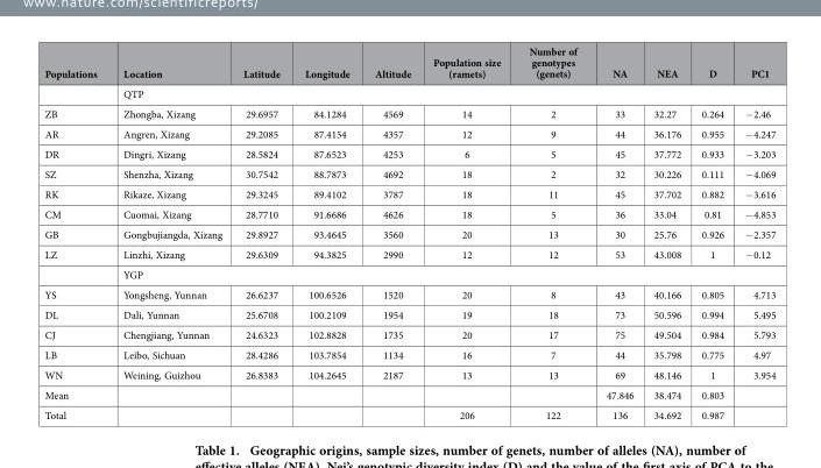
<table><thead><tr><td>Populations</td><td>Location</td><td>Latitude</td><td>Longitude</td><td>Altitude</td><td>Population size (ramets)</td><td>Number of genotypes (genets)</td><td>NA</td><td>NEA</td><td>D</td><td>PC1</td></tr></thead><tbody><tr><td></td><td colspan="10">QTP</td></tr><tr><td>ZB</td><td>Zhongba, Xizang</td><td>29.6957</td><td>84.1284</td><td>4569</td><td>14</td><td>2</td><td>33</td><td>32.27</td><td>0.264</td><td>− 2.46</td></tr><tr><td>AR</td><td>Angren, Xizang</td><td>29.2085</td><td>87.4154</td><td>4357</td><td>12</td><td>9</td><td>44</td><td>36.176</td><td>0.955</td><td>− 4.247</td></tr><tr><td>DR</td><td>Dingri, Xizang</td><td>28.5824</td><td>87.6523</td><td>4253</td><td>6</td><td>5</td><td>45</td><td>37.772</td><td>0.933</td><td>− 3.203</td></tr><tr><td>SZ</td><td>Shenzha, Xizang</td><td>30.7542</td><td>88.7873</td><td>4692</td><td>18</td><td>2</td><td>32</td><td>30.226</td><td>0.111</td><td>− 4.069</td></tr><tr><td>RK</td><td>Rikaze, Xizang</td><td>29.3245</td><td>89.4102</td><td>3787</td><td>18</td><td>11</td><td>45</td><td>37.702</td><td>0.882</td><td>− 3.616</td></tr><tr><td>CM</td><td>Cuomai, Xizang</td><td>28.7710</td><td>91.6686</td><td>4626</td><td>18</td><td>5</td><td>36</td><td>33.04</td><td>0.81</td><td>− 4.853</td></tr><tr><td>GB</td><td>Gongbujiangda, Xizang</td><td>29.8927</td><td>93.4645</td><td>3560</td><td>20</td><td>13</td><td>30</td><td>25.76</td><td>0.926</td><td>− 2.357</td></tr><tr><td rowspan="2">LZ</td><td>Linzhi, Xizang</td><td>29.6309</td><td>94.3825</td><td>2990</td><td>12</td><td>12</td><td>53</td><td>43.008</td><td>1</td><td>− 0.12</td></tr><tr><td colspan="10">YGP</td></tr><tr><td>YS</td><td>Yongsheng, Yunnan</td><td>26.6237</td><td>100.6526</td><td>1520</td><td>20</td><td>8</td><td>43</td><td>40.166</td><td>0.805</td><td>4.713</td></tr><tr><td>DL</td><td>Dali, Yunnan</td><td>25.6708</td><td>100.2109</td><td>1954</td><td>19</td><td>18</td><td>73</td><td>50.596</td><td>0.994</td><td>5.495</td></tr><tr><td>CJ</td><td>Chengjiang, Yunnan</td><td>24.6323</td><td>102.8828</td><td>1735</td><td>20</td><td>17</td><td>75</td><td>49.504</td><td>0.984</td><td>5.793</td></tr><tr><td>LB</td><td>Leibo, Sichuan</td><td>28.4286</td><td>103.7854</td><td>1134</td><td>16</td><td>7</td><td>44</td><td>35.798</td><td>0.775</td><td>4.97</td></tr><tr><td>WN</td><td>Weining, Guizhou</td><td>26.8383</td><td>104.2645</td><td>2187</td><td>13</td><td>13</td><td>69</td><td>48.146</td><td>1</td><td>3.954</td></tr><tr><td>Mean</td><td></td><td></td><td></td><td></td><td></td><td></td><td>47.846</td><td>38.474</td><td>0.803</td><td></td></tr><tr><td>Total</td><td></td><td></td><td></td><td></td><td>206</td><td>122</td><td>136</td><td>34.692</td><td>0.987</td><td></td></tr></tbody></table>